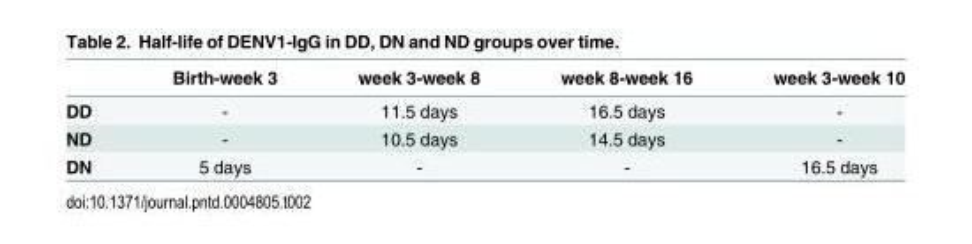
<table><thead><tr><td></td><td>Birth-week 3</td><td>week 3-week 8</td><td>week 8-week 16</td><td>week 3-week 10</td></tr></thead><tbody><tr><td>DD</td><td>-</td><td>11.5 days</td><td>16.5 days</td><td>-</td></tr><tr><td>ND</td><td>-</td><td>10.5 days</td><td>14.5 days</td><td>-</td></tr><tr><td>DN</td><td>5 days</td><td>-</td><td>-</td><td>16.5 days</td></tr></tbody></table>